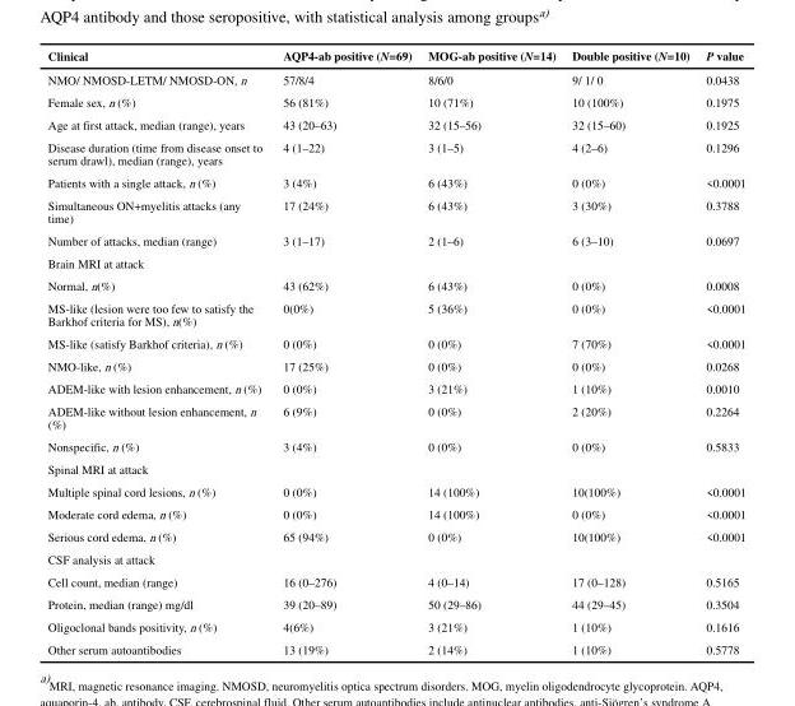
<table><thead><tr><td>Clinical</td><td>AQP4-ab positive (N=69)</td><td>MOG-ab positive (N=14)</td><td>Double positive (N=10)</td><td>P value</td></tr></thead><tbody><tr><td>NMO/ NMOSD-LETM/ NMOSD-ON, n</td><td>57/8/4</td><td>8/6/0</td><td>9/ 1/ 0</td><td>0.0438</td></tr><tr><td>Female sex, n (%)</td><td>56 (81%)</td><td>10 (71%)</td><td>10 (100%)</td><td>0.1975</td></tr><tr><td>Age at first attack, median (range), years</td><td>43 (20–63)</td><td>32 (15–56)</td><td>32 (15–60)</td><td>0.1925</td></tr><tr><td>Disease duration (time from disease onset to serum drawl), median (range), years</td><td>4 (1–22)</td><td>3 (1–5)</td><td>4 (2–6)</td><td>0.1296</td></tr><tr><td>Patients with a single attack, n (%)</td><td>3 (4%)</td><td>6 (43%)</td><td>0 (0%)</td><td>&lt;0.0001</td></tr><tr><td>Simultaneous ON+myelitis attacks (any time)</td><td>17 (24%)</td><td>6 (43%)</td><td>3 (30%)</td><td>0.3788</td></tr><tr><td>Number of attacks, median (range)</td><td>3 (1–17)</td><td>2 (1–6)</td><td>6 (3–10)</td><td>0.0697</td></tr><tr><td colspan="5">Brain MRI at attack</td></tr><tr><td>Normal, n(%)</td><td>43 (62%)</td><td>6 (43%)</td><td>0 (0%)</td><td>0.0008</td></tr><tr><td>MS-like (lesion were too few to satisfy the Barkhof criteria for MS), n(%)</td><td>0(0%)</td><td>5 (36%)</td><td>0 (0%)</td><td>&lt;0.0001</td></tr><tr><td>MS-like (satisfy Barkhof criteria), n (%)</td><td>0 (0%)</td><td>0 (0%)</td><td>7 (70%)</td><td>&lt;0.0001</td></tr><tr><td>NMO-like, n (%)</td><td>17 (25%)</td><td>0 (0%)</td><td>0 (0%)</td><td>0.0268</td></tr><tr><td>ADEM-like with lesion enhancement, n (%)</td><td>0 (0%)</td><td>3 (21%)</td><td>1 (10%)</td><td>0.0010</td></tr><tr><td>ADEM-like without lesion enhancement, n (%)</td><td>6 (9%)</td><td>0 (0%)</td><td>2 (20%)</td><td>0.2264</td></tr><tr><td>Nonspecific, n (%)</td><td>3 (4%)</td><td>0 (0%)</td><td>0 (0%)</td><td>0.5833</td></tr><tr><td colspan="5">Spinal MRI at attack</td></tr><tr><td>Multiple spinal cord lesions, n (%)</td><td>0 (0%)</td><td>14 (100%)</td><td>10(100%)</td><td>&lt;0.0001</td></tr><tr><td>Moderate cord edema, n (%)</td><td>0 (0%)</td><td>14 (100%)</td><td>0 (0%)</td><td>&lt;0.0001</td></tr><tr><td>Serious cord edema, n (%)</td><td>65 (94%)</td><td>0 (0%)</td><td>10(100%)</td><td>&lt;0.0001</td></tr><tr><td colspan="5">CSF analysis at attack</td></tr><tr><td>Cell count, median (range)</td><td>16 (0–276)</td><td>4 (0–14)</td><td>17 (0–128)</td><td>0.5165</td></tr><tr><td>Protein, median (range) mg/dl</td><td>39 (20–89)</td><td>50 (29–86)</td><td>44 (29–45)</td><td>0.3504</td></tr><tr><td>Oligoclonal bands positivity, n (%)</td><td>4(6%)</td><td>3 (21%)</td><td>1 (10%)</td><td>0.1616</td></tr><tr><td>Other serum autoantibodies</td><td>13 (19%)</td><td>2 (14%)</td><td>1 (10%)</td><td>0.5778</td></tr></tbody></table>